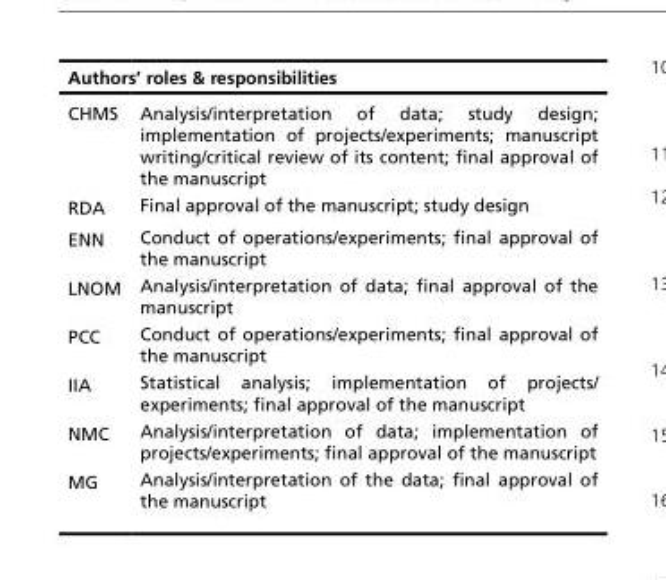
<table><thead><tr><td colspan="2">Authors’ roles &amp; responsibilities</td></tr><tr><td>CHMS</td><td>Analysis/interpretation of data; study design; implementation of projects/experiments; manuscript writing/critical review of its content; final approval of the manuscript</td></tr></thead><tbody><tr><td>RDA</td><td>Final approval of the manuscript; study design</td></tr><tr><td>ENN</td><td>Conduct of operations/experiments; final approval of the manuscript</td></tr><tr><td>LNOM</td><td>Analysis/interpretation of data; final approval of the manuscript</td></tr><tr><td>PCC</td><td>Conduct of operations/experiments; final approval of the manuscript</td></tr><tr><td>IIA</td><td>Statistical analysis; implementation of projects/ experiments; final approval of the manuscript</td></tr><tr><td>NMC</td><td>Analysis/interpretation of data; implementation of projects/experiments; final approval of the manuscript</td></tr><tr><td>MG</td><td>Analysis/interpretation of the data; final approval of the manuscript</td></tr></tbody></table>